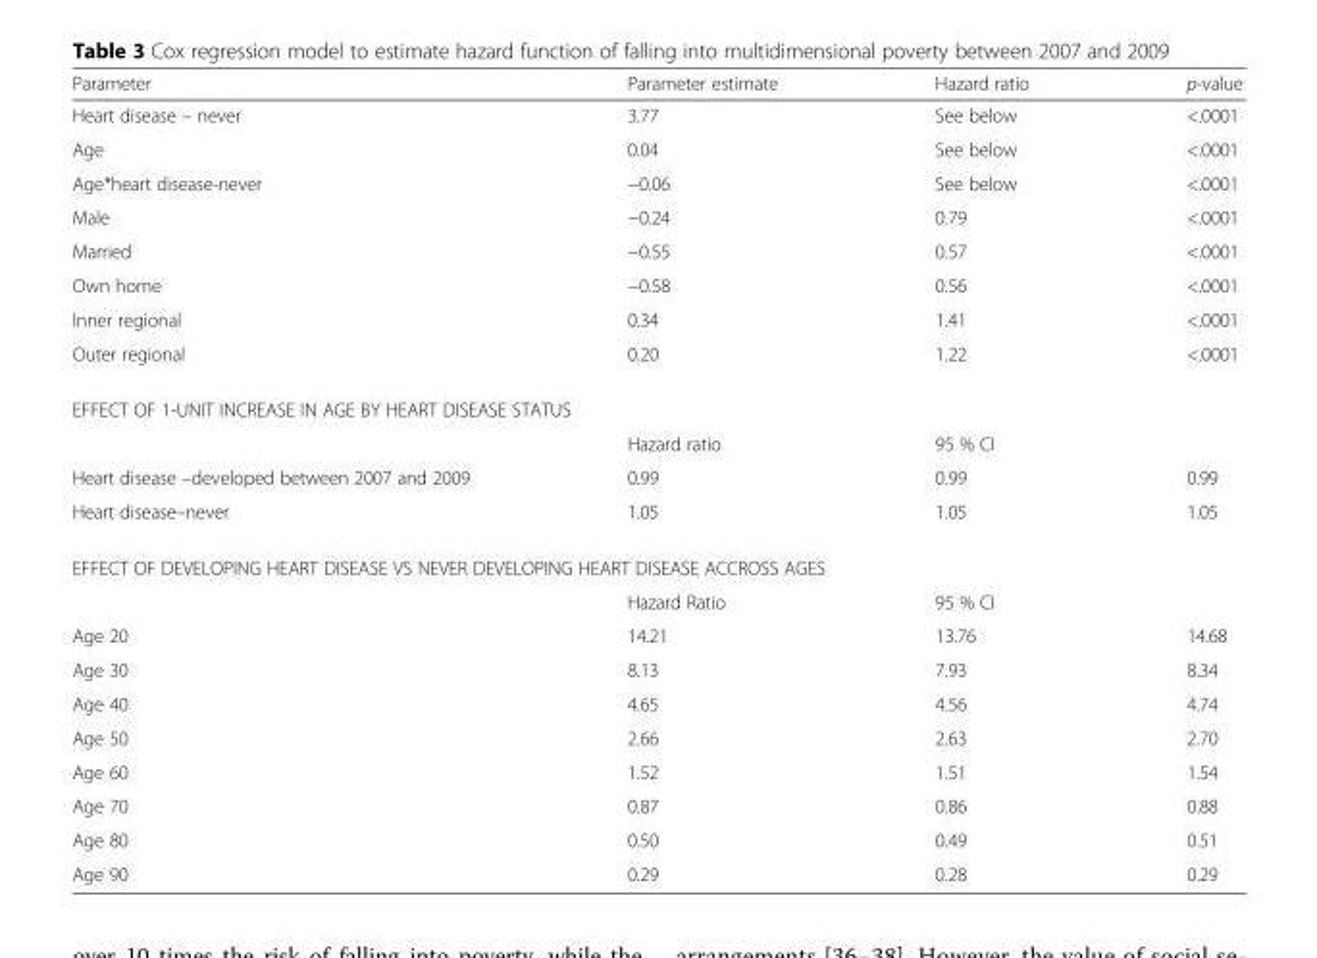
<table><thead><tr><td>Parameter</td><td>Parameter estimate</td><td>Hazard ratio</td><td>p-value</td></tr></thead><tbody><tr><td>Heart disease – never</td><td>3.77</td><td>See below</td><td>&lt;.0001</td></tr><tr><td>Age</td><td>0.04</td><td>See below</td><td>&lt;.0001</td></tr><tr><td>Age*heart disease-never</td><td>−0.06</td><td>See below</td><td>&lt;.0001</td></tr><tr><td>Male</td><td>−0.24</td><td>0.79</td><td>&lt;.0001</td></tr><tr><td>Married</td><td>−0.55</td><td>0.57</td><td>&lt;.0001</td></tr><tr><td>Own home</td><td>−0.58</td><td>0.56</td><td>&lt;.0001</td></tr><tr><td>Inner regional</td><td>0.34</td><td>1.41</td><td>&lt;.0001</td></tr><tr><td>Outer regional</td><td>0.20</td><td>1.22</td><td>&lt;.0001</td></tr><tr><td colspan="4">EFFECT OF 1-UNIT INCREASE IN AGE BY HEART DISEASE STATUS</td></tr><tr><td></td><td>Hazard ratio</td><td colspan="2">95 % CI</td></tr><tr><td>Heart disease –developed between 2007 and 2009</td><td>0.99</td><td>0.99</td><td>0.99</td></tr><tr><td>Heart disease–never</td><td>1.05</td><td>1.05</td><td>1.05</td></tr><tr><td colspan="4">EFFECT OF DEVELOPING HEART DISEASE VS NEVER DEVELOPING HEART DISEASE ACCROSS AGES</td></tr><tr><td></td><td>Hazard Ratio</td><td colspan="2">95 % CI</td></tr><tr><td>Age 20</td><td>14.21</td><td>13.76</td><td>14.68</td></tr><tr><td>Age 30</td><td>8.13</td><td>7.93</td><td>8.34</td></tr><tr><td>Age 40</td><td>4.65</td><td>4.56</td><td>4.74</td></tr><tr><td>Age 50</td><td>2.66</td><td>2.63</td><td>2.70</td></tr><tr><td>Age 60</td><td>1.52</td><td>1.51</td><td>1.54</td></tr><tr><td>Age 70</td><td>0.87</td><td>0.86</td><td>0.88</td></tr><tr><td>Age 80</td><td>0.50</td><td>0.49</td><td>0.51</td></tr><tr><td>Age 90</td><td>0.29</td><td>0.28</td><td>0.29</td></tr></tbody></table>